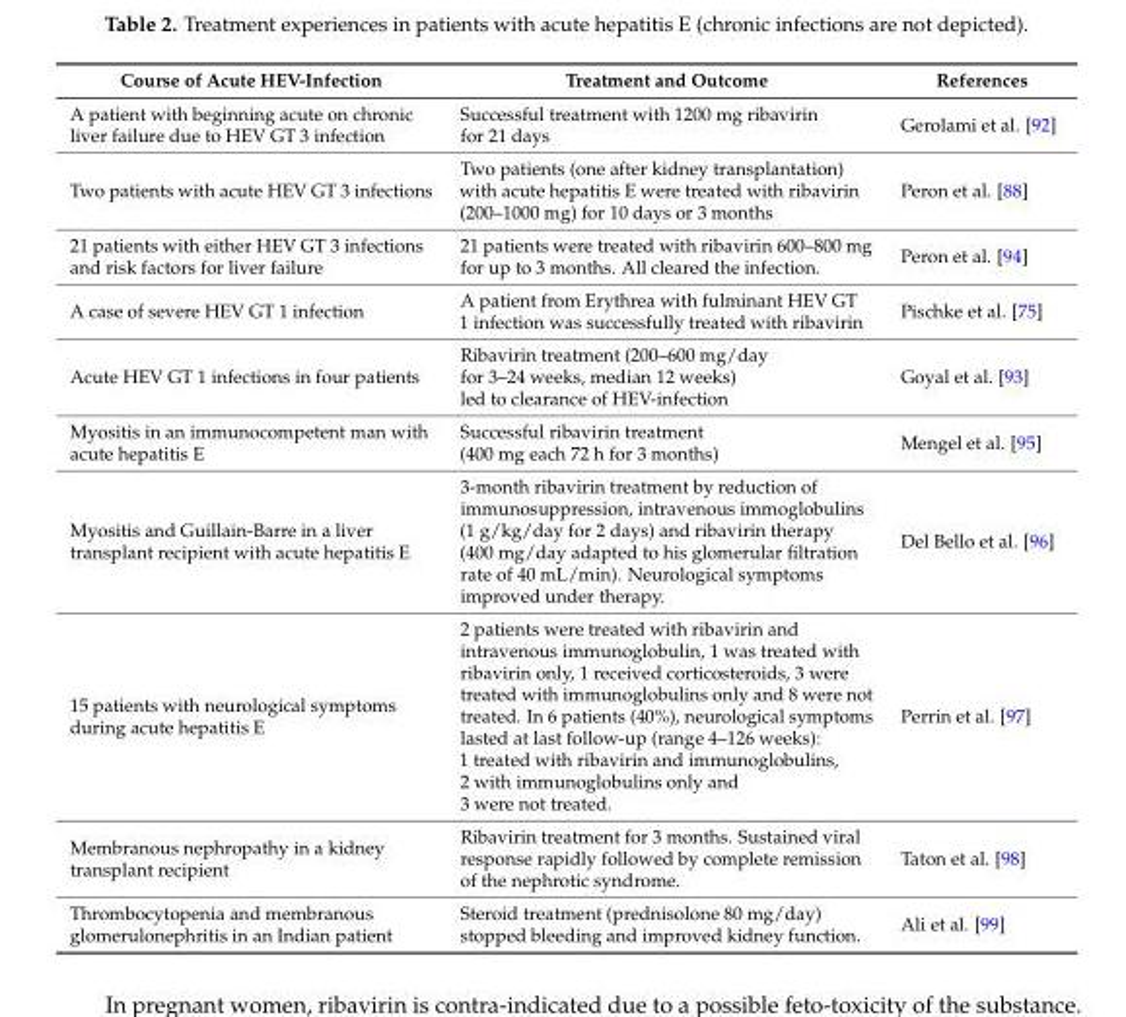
<table><thead><tr><td>Course of Acute HEV-Infection</td><td>Treatment and Outcome</td><td>References</td></tr></thead><tbody><tr><td>A patient with beginning acute on chronic liver failure due to HEV GT 3 infection</td><td>Successful treatment with 1200 mg ribavirin for 21 days</td><td>Gerolami et al. [92]</td></tr><tr><td>Two patients with acute HEV GT 3 infections</td><td>Two patients (one after kidney transplantation) with acute hepatitis E were treated with ribavirin (200–1000 mg) for 10 days or 3 months</td><td>Peron et al. [88]</td></tr><tr><td>21 patients with either HEV GT 3 infections and risk factors for liver failure</td><td>21 patients were treated with ribavirin 600–800 mg for up to 3 months. All cleared the infection.</td><td>Peron et al. [94]</td></tr><tr><td>A case of severe HEV GT 1 infection</td><td>A patient from Erythrea with fulminant HEV GT 1 infection was successfully treated with ribavirin</td><td>Pischke et al. [75]</td></tr><tr><td>Acute HEV GT 1 infections in four patients</td><td>Ribavirin treatment (200–600 mg/day for 3–24 weeks, median 12 weeks) led to clearance of HEV-infection</td><td>Goyal et al. [93]</td></tr><tr><td>Myositis in an immunocompetent man with acute hepatitis E</td><td>Successful ribavirin treatment (400 mg each 72 h for 3 months)</td><td>Mengel et al. [95]</td></tr><tr><td>Myositis and Guillain-Barre in a liver transplant recipient with acute hepatitis E</td><td>3-month ribavirin treatment by reduction of immunosuppression, intravenous immoglobulins (1 g/kg/day for 2 days) and ribavirin therapy (400 mg/day adapted to his glomerular filtration rate of 40 mL/min). Neurological symptoms improved under therapy.</td><td>Del Bello et al. [96]</td></tr><tr><td>15 patients with neurological symptoms during acute hepatitis E</td><td>2 patients were treated with ribavirin and intravenous immunoglobulin, 1 was treated with ribavirin only, 1 received corticosteroids, 3 were treated with immunoglobulins only and 8 were not treated. In 6 patients (40%), neurological symptoms lasted at last follow-up (range 4–126 weeks): 1 treated with ribavirin and immunoglobulins, 2 with immunoglobulins only and 3 were not treated.</td><td>Perrin et al. [97]</td></tr><tr><td>Membranous nephropathy in a kidney transplant recipient</td><td>Ribavirin treatment for 3 months. Sustained viral response rapidly followed by complete remission of the nephrotic syndrome.</td><td>Taton et al. [98]</td></tr><tr><td>Thrombocytopenia and membranous glomerulonephritis in an Indian patient</td><td>Steroid treatment (prednisolone 80 mg/day) stopped bleeding and improved kidney function.</td><td>Ali et al. [99]</td></tr></tbody></table>